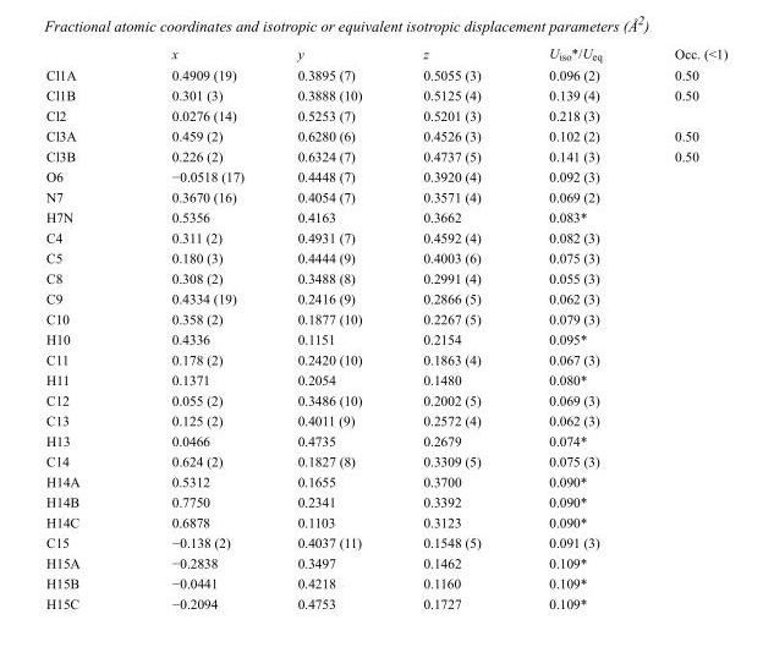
<table><thead><tr><td></td><td>x</td><td>y</td><td>z</td><td>U<sub>iso</sub>*/U<sub>eq</sub></td><td>Occ. (&lt;1)</td></tr></thead><tbody><tr><td>Cl1A</td><td>0.4909 (19)</td><td>0.3895 (7)</td><td>0.5055 (3)</td><td>0.096 (2)</td><td>0.50</td></tr><tr><td>Cl1B</td><td>0.301 (3)</td><td>0.3888 (10)</td><td>0.5125 (4)</td><td>0.139 (4)</td><td>0.50</td></tr><tr><td>Cl2</td><td>0.0276 (14)</td><td>0.5253 (7)</td><td>0.5201 (3)</td><td>0.218 (3)</td><td></td></tr><tr><td>Cl3A</td><td>0.459 (2)</td><td>0.6280 (6)</td><td>0.4526 (3)</td><td>0.102 (2)</td><td>0.50</td></tr><tr><td>Cl3B</td><td>0.226 (2)</td><td>0.6324 (7)</td><td>0.4737 (5)</td><td>0.141 (3)</td><td>0.50</td></tr><tr><td>O6</td><td>−0.0518 (17)</td><td>0.4448 (7)</td><td>0.3920 (4)</td><td>0.092 (3)</td><td></td></tr><tr><td>N7</td><td>0.3670 (16)</td><td>0.4054 (7)</td><td>0.3571 (4)</td><td>0.069 (2)</td><td></td></tr><tr><td>H7N</td><td>0.5356</td><td>0.4163</td><td>0.3662</td><td>0.083*</td><td></td></tr><tr><td>C4</td><td>0.311 (2)</td><td>0.4931 (7)</td><td>0.4592 (4)</td><td>0.082 (3)</td><td></td></tr><tr><td>C5</td><td>0.180 (3)</td><td>0.4444 (9)</td><td>0.4003 (6)</td><td>0.075 (3)</td><td></td></tr><tr><td>C8</td><td>0.308 (2)</td><td>0.3488 (8)</td><td>0.2991 (4)</td><td>0.055 (3)</td><td></td></tr><tr><td>C9</td><td>0.4334 (19)</td><td>0.2416 (9)</td><td>0.2866 (5)</td><td>0.062 (3)</td><td></td></tr><tr><td>C10</td><td>0.358 (2)</td><td>0.1877 (10)</td><td>0.2267 (5)</td><td>0.079 (3)</td><td></td></tr><tr><td>H10</td><td>0.4336</td><td>0.1151</td><td>0.2154</td><td>0.095*</td><td></td></tr><tr><td>C11</td><td>0.178 (2)</td><td>0.2420 (10)</td><td>0.1863 (4)</td><td>0.067 (3)</td><td></td></tr><tr><td>H11</td><td>0.1371</td><td>0.2054</td><td>0.1480</td><td>0.080*</td><td></td></tr><tr><td>C12</td><td>0.055 (2)</td><td>0.3486 (10)</td><td>0.2002 (5)</td><td>0.069 (3)</td><td></td></tr><tr><td>C13</td><td>0.125 (2)</td><td>0.4011 (9)</td><td>0.2572 (4)</td><td>0.062 (3)</td><td></td></tr><tr><td>H13</td><td>0.0466</td><td>0.4735</td><td>0.2679</td><td>0.074*</td><td></td></tr><tr><td>C14</td><td>0.624 (2)</td><td>0.1827 (8)</td><td>0.3309 (5)</td><td>0.075 (3)</td><td></td></tr><tr><td>H14A</td><td>0.5312</td><td>0.1655</td><td>0.3700</td><td>0.090*</td><td></td></tr><tr><td>H14B</td><td>0.7750</td><td>0.2341</td><td>0.3392</td><td>0.090*</td><td></td></tr><tr><td>H14C</td><td>0.6878</td><td>0.1103</td><td>0.3123</td><td>0.090*</td><td></td></tr><tr><td>C15</td><td>−0.138 (2)</td><td>0.4037 (11)</td><td>0.1548 (5)</td><td>0.091 (3)</td><td></td></tr><tr><td>H15A</td><td>−0.2838</td><td>0.3497</td><td>0.1462</td><td>0.109*</td><td></td></tr><tr><td>H15B</td><td>−0.0441</td><td>0.4218</td><td>0.1160</td><td>0.109*</td><td></td></tr><tr><td>H15C</td><td>−0.2094</td><td>0.4753</td><td>0.1727</td><td>0.109*</td><td></td></tr></tbody></table>